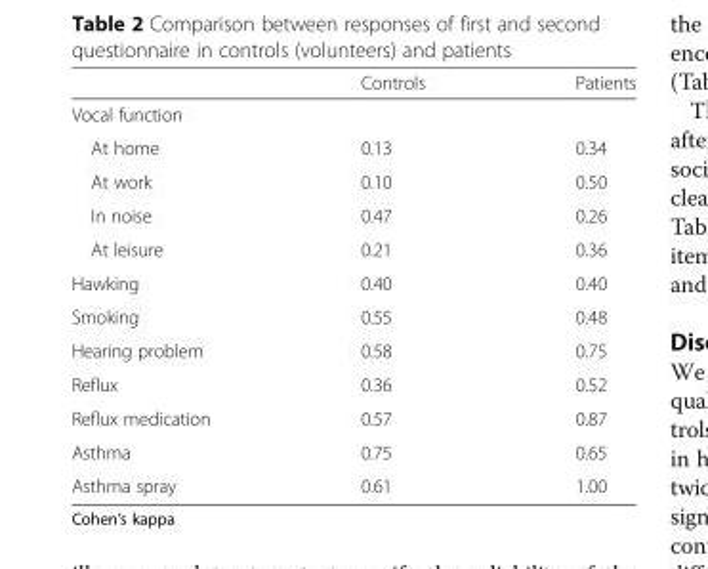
<table><thead><tr><td></td><td>Controls</td><td>Patients</td></tr></thead><tbody><tr><td colspan="3">Vocal function</td></tr><tr><td>At home</td><td>0.13</td><td>0.34</td></tr><tr><td>At work</td><td>0.10</td><td>0.50</td></tr><tr><td>In noise</td><td>0.47</td><td>0.26</td></tr><tr><td>At leisure</td><td>0.21</td><td>0.36</td></tr><tr><td>Hawking</td><td>0.40</td><td>0.40</td></tr><tr><td>Smoking</td><td>0.55</td><td>0.48</td></tr><tr><td>Hearing problem</td><td>0.58</td><td>0.75</td></tr><tr><td>Reflux</td><td>0.36</td><td>0.52</td></tr><tr><td>Reflux medication</td><td>0.57</td><td>0.87</td></tr><tr><td>Asthma</td><td>0.75</td><td>0.65</td></tr><tr><td>Asthma spray</td><td>0.61</td><td>1.00</td></tr></tbody></table>